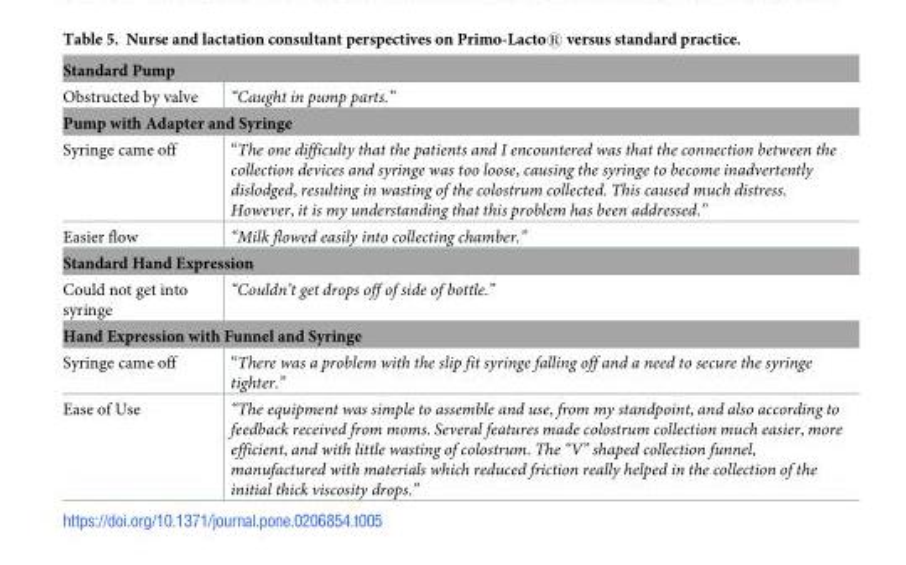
<table><tbody><tr><td colspan="2">Standard Pump</td></tr><tr><td>Obstructed by valve</td><td>“Caught in pump parts.”</td></tr><tr><td colspan="2">Pump with Adapter and Syringe</td></tr><tr><td>Syringe came off</td><td>“The one difficulty that the patients and I encountered was that the connection between the collection devices and syringe was too loose, causing the syringe to become inadvertently dislodged, resulting in wasting of the colostrum collected. This caused much distress. However, it is my understanding that this problem has been addressed.”</td></tr><tr><td>Easier flow</td><td>“Milk flowed easily into collecting chamber.”</td></tr><tr><td colspan="2">Standard Hand Expression</td></tr><tr><td>Could not get into syringe</td><td>“Couldn’t get drops off of side of bottle.”</td></tr><tr><td colspan="2">Hand Expression with Funnel and Syringe</td></tr><tr><td>Syringe came off</td><td>“There was a problem with the slip fit syringe falling off and a need to secure the syringe tighter.”</td></tr><tr><td>Ease of Use</td><td>“The equipment was simple to assemble and use, from my standpoint, and also according to feedback received from moms. Several features made colostrum collection much easier, more efficient, and with little wasting of colostrum. The “V” shaped collection funnel, manufactured with materials which reduced friction really helped in the collection of the initial thick viscosity drops.”</td></tr></tbody></table>